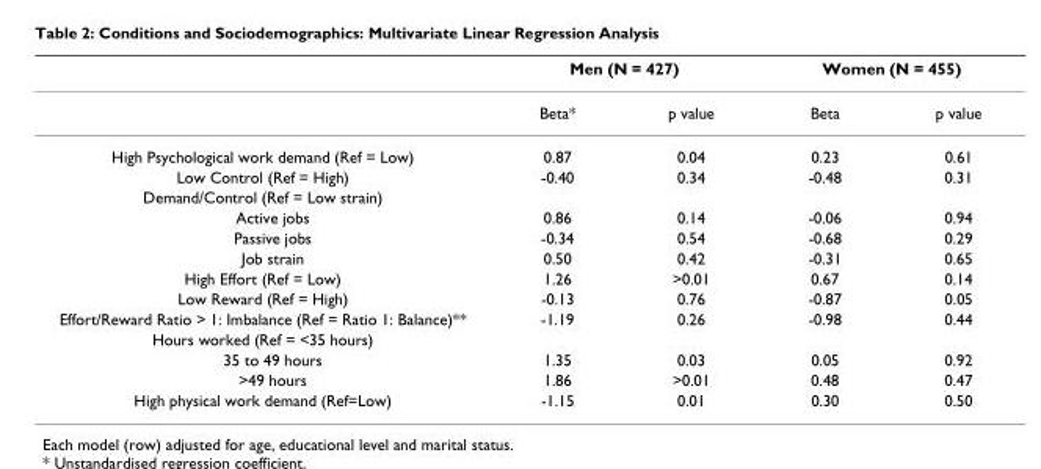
<table><thead><tr><td rowspan="2"></td><td colspan="2">Men (N = 427)</td><td colspan="2">Women (N = 455)</td></tr><tr><td>Beta*</td><td>p value</td><td>Beta</td><td>p value</td></tr></thead><tbody><tr><td>High Psychological work demand (Ref = Low)</td><td>0.87</td><td>0.04</td><td>0.23</td><td>0.61</td></tr><tr><td>Low Control (Ref = High)</td><td>-0.40</td><td>0.34</td><td>-0.48</td><td>0.31</td></tr><tr><td colspan="5">Demand/Control (Ref = Low strain)</td></tr><tr><td>Active jobs</td><td>0.86</td><td>0.14</td><td>-0.06</td><td>0.94</td></tr><tr><td>Passive jobs</td><td>-0.34</td><td>0.54</td><td>-0.68</td><td>0.29</td></tr><tr><td>Job strain</td><td>0.50</td><td>0.42</td><td>-0.31</td><td>0.65</td></tr><tr><td>High Effort (Ref = Low)</td><td>1.26</td><td>&gt;0.01</td><td>0.67</td><td>0.14</td></tr><tr><td>Low Reward (Ref = High)</td><td>-0.13</td><td>0.76</td><td>-0.87</td><td>0.05</td></tr><tr><td>Effort/Reward Ratio &gt; 1: Imbalance (Ref = Ratio 1: Balance)**</td><td>-1.19</td><td>0.26</td><td>-0.98</td><td>0.44</td></tr><tr><td colspan="5">Hours worked (Ref = &lt;35 hours)</td></tr><tr><td>35 to 49 hours</td><td>1.35</td><td>0.03</td><td>0.05</td><td>0.92</td></tr><tr><td>&gt;49 hours</td><td>1.86</td><td>&gt;0.01</td><td>0.48</td><td>0.47</td></tr><tr><td>High physical work demand (Ref=Low)</td><td>-1.15</td><td>0.01</td><td>0.30</td><td>0.50</td></tr></tbody></table>